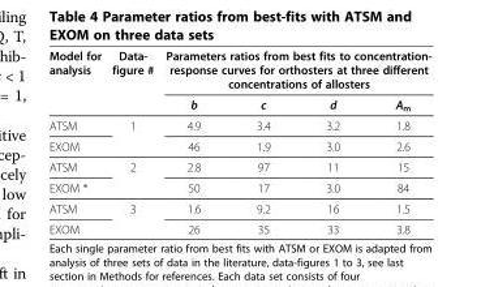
<table><thead><tr><td rowspan="2">Model for analysis</td><td rowspan="2">Data- figure #</td><td colspan="4">Parameters ratios from best fits to concentration- response curves for orthosters at three different concentrations of allosters</td></tr><tr><td>b</td><td>c</td><td>d</td><td>A<sub>m</sub></td></tr></thead><tbody><tr><td>ATSM</td><td rowspan="2">1</td><td>4.9</td><td>3.4</td><td>3.2</td><td>1.8</td></tr><tr><td>EXOM</td><td>46</td><td>1.9</td><td>3.0</td><td>2.6</td></tr><tr><td>ATSM</td><td rowspan="2">2</td><td>2.8</td><td>97</td><td>11</td><td>15</td></tr><tr><td>EXOM *</td><td>50</td><td>17</td><td>3.0</td><td>84</td></tr><tr><td>ATSM</td><td rowspan="2">3</td><td>1.6</td><td>9.2</td><td>16</td><td>1.5</td></tr><tr><td>EXOM</td><td>26</td><td>35</td><td>33</td><td>3.8</td></tr></tbody></table>